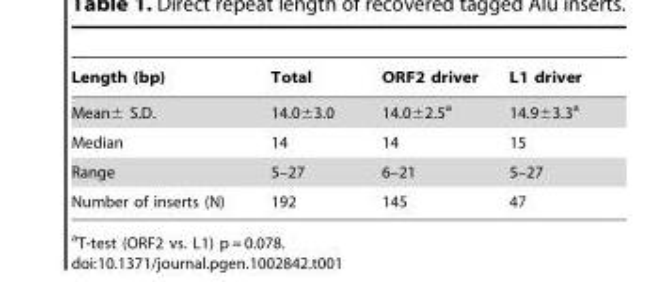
<table><thead><tr><td>Length (bp)</td><td>Total</td><td>ORF2 driver</td><td>L1 driver</td></tr></thead><tbody><tr><td>Mean± S.D.</td><td>14.0±3.0</td><td>14.0±2.5<sup>a</sup></td><td>14.9±3.3<sup>a</sup></td></tr><tr><td>Median</td><td>14</td><td>14</td><td>15</td></tr><tr><td>Range</td><td>5–27</td><td>6–21</td><td>5–27</td></tr><tr><td>Number of inserts (N)</td><td>192</td><td>145</td><td>47</td></tr></tbody></table>